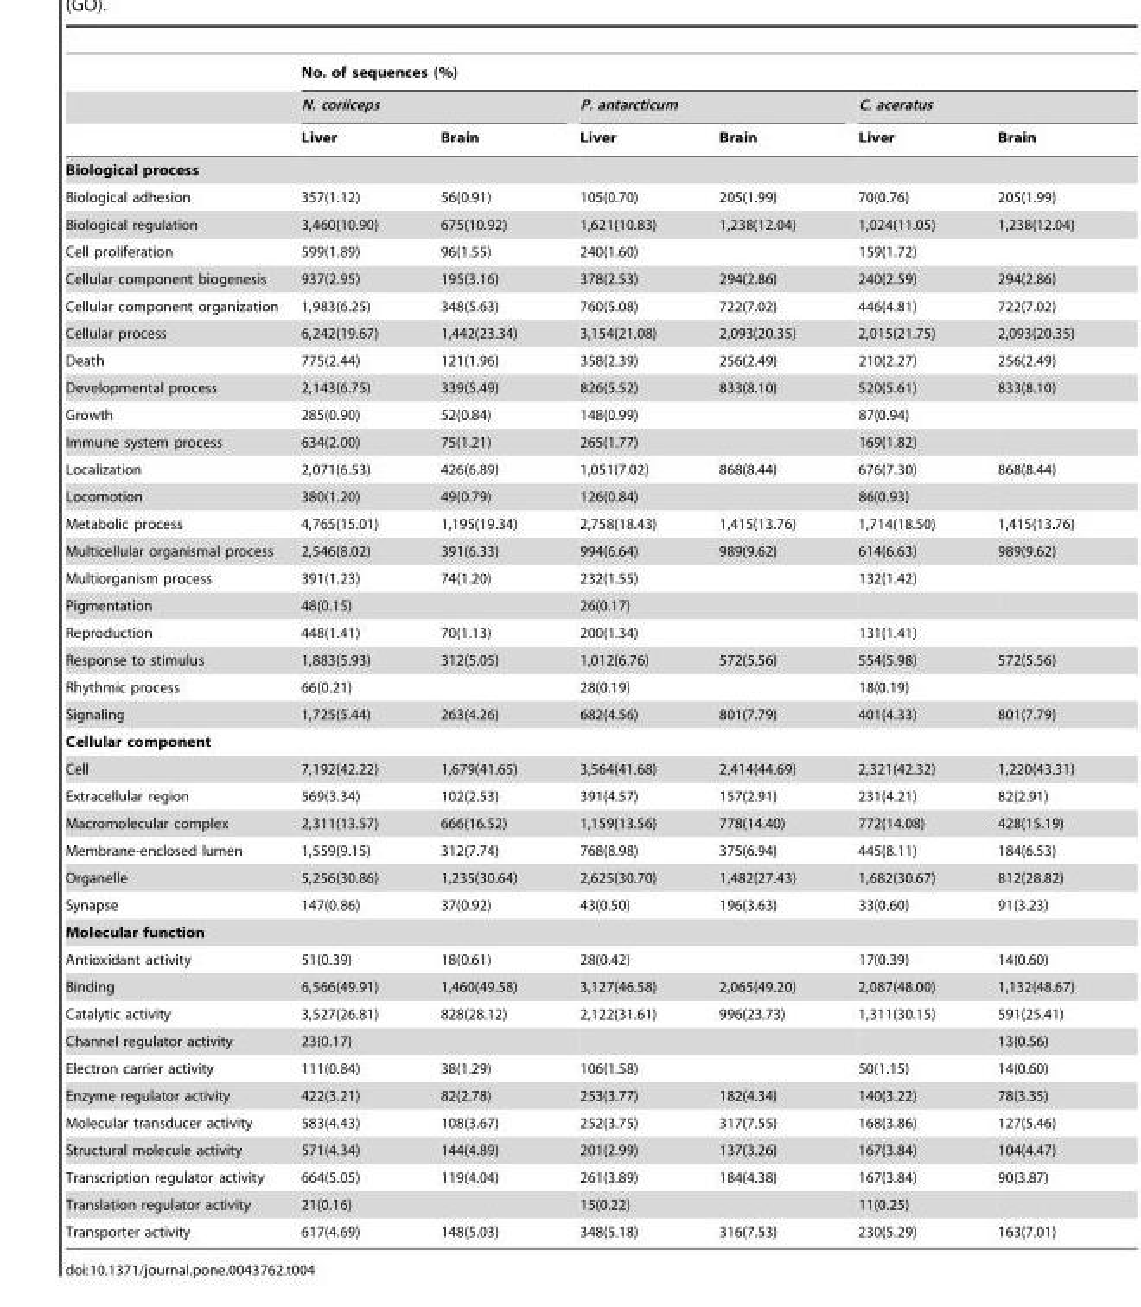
<table><thead><tr><td rowspan="3"></td><td colspan="6">No. of sequences (%)</td></tr><tr><td colspan="2">N. coriiceps</td><td colspan="2">P. antarcticum</td><td colspan="2">C. aceratus</td></tr><tr><td>Liver</td><td>Brain</td><td>Liver</td><td>Brain</td><td>Liver</td><td>Brain</td></tr></thead><tbody><tr><td colspan="7">Biological process</td></tr><tr><td>Biological adhesion</td><td>357(1.12)</td><td>56(0.91)</td><td>105(0.70)</td><td>205(1.99)</td><td>70(0.76)</td><td>205(1.99)</td></tr><tr><td>Biological regulation</td><td>3,460(10.90)</td><td>675(10.92)</td><td>1,621(10.83)</td><td>1,238(12.04)</td><td>1,024(11.05)</td><td>1,238(12.04)</td></tr><tr><td>Cell proliferation</td><td>599(1.89)</td><td>96(1.55)</td><td>240(1.60)</td><td></td><td>159(1.72)</td><td></td></tr><tr><td>Cellular component biogenesis</td><td>937(2.95)</td><td>195(3.16)</td><td>378(2.53)</td><td>294(2.86)</td><td>240(2.59)</td><td>294(2.86)</td></tr><tr><td>Cellular component organization</td><td>1,983(6.25)</td><td>348(5.63)</td><td>760(5.08)</td><td>722(7.02)</td><td>446(4.81)</td><td>722(7.02)</td></tr><tr><td>Cellular process</td><td>6,242(19.67)</td><td>1,442(23.34)</td><td>3,154(21.08)</td><td>2,093(20.35)</td><td>2,015(21.75)</td><td>2,093(20.35)</td></tr><tr><td>Death</td><td>775(2.44)</td><td>121(1.96)</td><td>358(2.39)</td><td>256(2.49)</td><td>210(2.27)</td><td>256(2.49)</td></tr><tr><td>Developmental process</td><td>2,143(6.75)</td><td>339(5.49)</td><td>826(5.52)</td><td>833(8.10)</td><td>520(5.61)</td><td>833(8.10)</td></tr><tr><td>Growth</td><td>285(0.90)</td><td>52(0.84)</td><td>148(0.99)</td><td></td><td>87(0.94)</td><td></td></tr><tr><td>Immune system process</td><td>634(2.00)</td><td>75(1.21)</td><td>265(1.77)</td><td></td><td>169(1.82)</td><td></td></tr><tr><td>Localization</td><td>2,071(6.53)</td><td>426(6.89)</td><td>1,051(7.02)</td><td>868(8.44)</td><td>676(7.30)</td><td>868(8.44)</td></tr><tr><td>Locomotion</td><td>380(1.20)</td><td>49(0.79)</td><td>126(0.84)</td><td></td><td>86(0.93)</td><td></td></tr><tr><td>Metabolic process</td><td>4,765(15.01)</td><td>1,195(19.34)</td><td>2,758(18.43)</td><td>1,415(13.76)</td><td>1,714(18.50)</td><td>1,415(13.76)</td></tr><tr><td>Multicellular organismal process</td><td>2,546(8.02)</td><td>391(6.33)</td><td>994(6.64)</td><td>989(9.62)</td><td>614(6.63)</td><td>989(9.62)</td></tr><tr><td>Multiorganism process</td><td>391(1.23)</td><td>74(1.20)</td><td>232(1.55)</td><td></td><td>132(1.42)</td><td></td></tr><tr><td>Pigmentation</td><td>48(0.15)</td><td></td><td>26(0.17)</td><td></td><td></td><td></td></tr><tr><td>Reproduction</td><td>448(1.41)</td><td>70(1.13)</td><td>200(1.34)</td><td></td><td>131(1.41)</td><td></td></tr><tr><td>Response to stimulus</td><td>1,883(5.93)</td><td>312(5.05)</td><td>1,012(6.76)</td><td>572(5.56)</td><td>554(5.98)</td><td>572(5.56)</td></tr><tr><td>Rhythmic process</td><td>66(0.21)</td><td></td><td>28(0.19)</td><td></td><td>18(0.19)</td><td></td></tr><tr><td>Signaling</td><td>1,725(5.44)</td><td>263(4.26)</td><td>682(4.56)</td><td>801(7.79)</td><td>401(4.33)</td><td>801(7.79)</td></tr><tr><td colspan="7">Cellular component</td></tr><tr><td>Cell</td><td>7,192(42.22)</td><td>1,679(41.65)</td><td>3,564(41.68)</td><td>2,414(44.69)</td><td>2,321(42.32)</td><td>1,220(43.31)</td></tr><tr><td>Extracellular region</td><td>569(3.34)</td><td>102(2.53)</td><td>391(4.57)</td><td>157(2.91)</td><td>231(4.21)</td><td>82(2.91)</td></tr><tr><td>Macromolecular complex</td><td>2,311(13.57)</td><td>666(16.52)</td><td>1,159(13.56)</td><td>778(14.40)</td><td>772(14.08)</td><td>428(15.19)</td></tr><tr><td>Membrane-enclosed lumen</td><td>1,559(9.15)</td><td>312(7.74)</td><td>768(8.98)</td><td>375(6.94)</td><td>445(8.11)</td><td>184(6.53)</td></tr><tr><td>Organelle</td><td>5,256(30.86)</td><td>1,235(30.64)</td><td>2,625(30.70)</td><td>1,482(27.43)</td><td>1,682(30.67)</td><td>812(28.82)</td></tr><tr><td>Synapse</td><td>147(0.86)</td><td>37(0.92)</td><td>43(0.50)</td><td>196(3.63)</td><td>33(0.60)</td><td>91(3.23)</td></tr><tr><td colspan="7">Molecular function</td></tr><tr><td>Antioxidant activity</td><td>51(0.39)</td><td>18(0.61)</td><td>28(0.42)</td><td></td><td>17(0.39)</td><td>14(0.60)</td></tr><tr><td>Binding</td><td>6,566(49.91)</td><td>1,460(49.58)</td><td>3,127(46.58)</td><td>2,065(49.20)</td><td>2,087(48.00)</td><td>1,132(48.67)</td></tr><tr><td>Catalytic activity</td><td>3,527(26.81)</td><td>828(28.12)</td><td>2,122(31.61)</td><td>996(23.73)</td><td>1,311(30.15)</td><td>591(25.41)</td></tr><tr><td>Channel regulator activity</td><td>23(0.17)</td><td></td><td></td><td></td><td></td><td>13(0.56)</td></tr><tr><td>Electron carrier activity</td><td>111(0.84)</td><td>38(1.29)</td><td>106(1.58)</td><td></td><td>50(1.15)</td><td>14(0.60)</td></tr><tr><td>Enzyme regulator activity</td><td>422(3.21)</td><td>82(2.78)</td><td>253(3.77)</td><td>182(4.34)</td><td>140(3.22)</td><td>78(3.35)</td></tr><tr><td>Molecular transducer activity</td><td>583(4.43)</td><td>108(3.67)</td><td>252(3.75)</td><td>317(7.55)</td><td>168(3.86)</td><td>127(5.46)</td></tr><tr><td>Structural molecule activity</td><td>571(4.34)</td><td>144(4.89)</td><td>201(2.99)</td><td>137(3.26)</td><td>167(3.84)</td><td>104(4.47)</td></tr><tr><td>Transcription regulator activity</td><td>664(5.05)</td><td>119(4.04)</td><td>261(3.89)</td><td>184(4.38)</td><td>167(3.84)</td><td>90(3.87)</td></tr><tr><td>Translation regulator activity</td><td>21(0.16)</td><td></td><td>15(0.22)</td><td></td><td>11(0.25)</td><td></td></tr><tr><td>Transporter activity</td><td>617(4.69)</td><td>148(5.03)</td><td>348(5.18)</td><td>316(7.53)</td><td>230(5.29)</td><td>163(7.01)</td></tr></tbody></table>